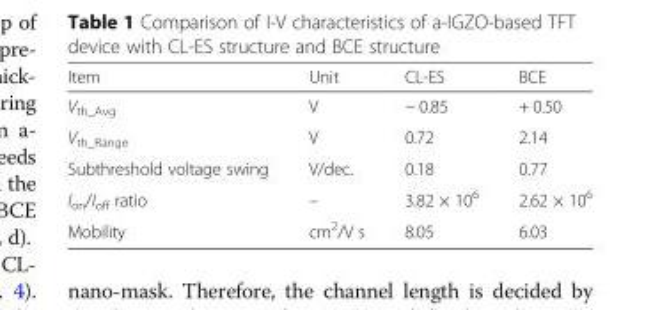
<table><thead><tr><td>Item</td><td>Unit</td><td>CL-ES</td><td>BCE</td></tr></thead><tbody><tr><td>V<sub>th_Avg</sub></td><td>V</td><td>− 0.85</td><td>+ 0.50</td></tr><tr><td>V<sub>th_Range</sub></td><td>V</td><td>0.72</td><td>2.14</td></tr><tr><td>Subthreshold voltage swing</td><td>V/dec.</td><td>0.18</td><td>0.77</td></tr><tr><td>I<sub>on</sub>/I<sub>off</sub> ratio</td><td>–</td><td>3.82 × 10<sup>6</sup></td><td>2.62 × 10<sup>6</sup></td></tr><tr><td>Mobility</td><td>cm<sup>2</sup>/V s</td><td>8.05</td><td>6.03</td></tr></tbody></table>